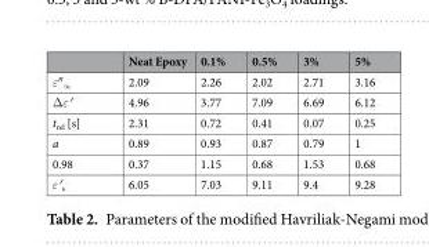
<table><thead><tr><td></td><td>Neat Epoxy</td><td>0.1%</td><td>0.5%</td><td>3%</td><td>5%</td></tr></thead><tbody><tr><td>ε″<sub>∞</sub></td><td>2.09</td><td>2.26</td><td>2.02</td><td>2.71</td><td>3.16</td></tr><tr><td>Δε′</td><td>4.96</td><td>3.77</td><td>7.09</td><td>6.69</td><td>6.12</td></tr><tr><td>t<sub>rel</sub> [s]</td><td>2.31</td><td>0.72</td><td>0.41</td><td>0.07</td><td>0.25</td></tr><tr><td>a</td><td>0.89</td><td>0.93</td><td>0.87</td><td>0.79</td><td>1</td></tr><tr><td>0.98</td><td>0.37</td><td>1.15</td><td>0.68</td><td>1.53</td><td>0.68</td></tr><tr><td>ε′<sub>s</sub></td><td>6.05</td><td>7.03</td><td>9.11</td><td>9.4</td><td>9.28</td></tr></tbody></table>